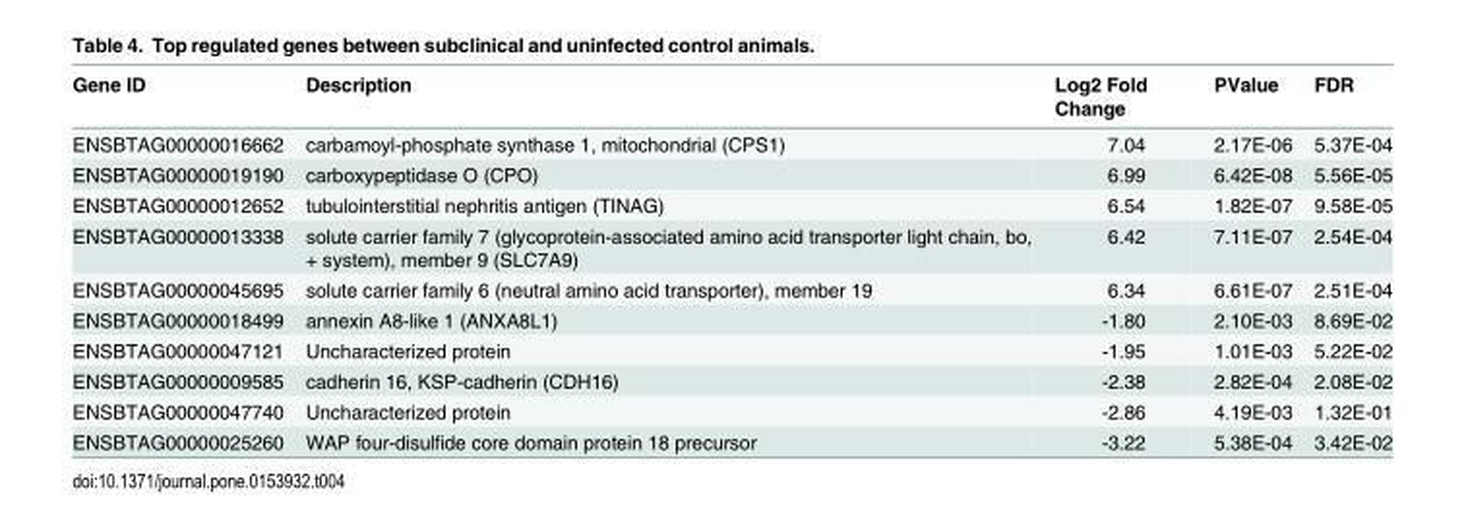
<table><thead><tr><td>Gene ID</td><td>Description</td><td>Log2 Fold Change</td><td>PValue</td><td>FDR</td></tr></thead><tbody><tr><td>ENSBTAG00000016662</td><td>carbamoyl-phosphate synthase 1, mitochondrial (CPS1)</td><td>7.04</td><td>2.17E-06</td><td>5.37E-04</td></tr><tr><td>ENSBTAG00000019190</td><td>carboxypeptidase O (CPO)</td><td>6.99</td><td>6.42E-08</td><td>5.56E-05</td></tr><tr><td>ENSBTAG00000012652</td><td>tubulointerstitial nephritis antigen (TINAG)</td><td>6.54</td><td>1.82E-07</td><td>9.58E-05</td></tr><tr><td>ENSBTAG00000013338</td><td>solute carrier family 7 (glycoprotein-associated amino acid transporter light chain, bo, + system), member 9 (SLC7A9)</td><td>6.42</td><td>7.11E-07</td><td>2.54E-04</td></tr><tr><td>ENSBTAG00000045695</td><td>solute carrier family 6 (neutral amino acid transporter), member 19</td><td>6.34</td><td>6.61E-07</td><td>2.51E-04</td></tr><tr><td>ENSBTAG00000018499</td><td>annexin A8-like 1 (ANXA8L1)</td><td>-1.80</td><td>2.10E-03</td><td>8.69E-02</td></tr><tr><td>ENSBTAG00000047121</td><td>Uncharacterized protein</td><td>-1.95</td><td>1.01E-03</td><td>5.22E-02</td></tr><tr><td>ENSBTAG00000009585</td><td>cadherin 16, KSP-cadherin (CDH16)</td><td>-2.38</td><td>2.82E-04</td><td>2.08E-02</td></tr><tr><td>ENSBTAG00000047740</td><td>Uncharacterized protein</td><td>-2.86</td><td>4.19E-03</td><td>1.32E-01</td></tr><tr><td>ENSBTAG00000025260</td><td>WAP four-disulfide core domain protein 18 precursor</td><td>-3.22</td><td>5.38E-04</td><td>3.42E-02</td></tr></tbody></table>